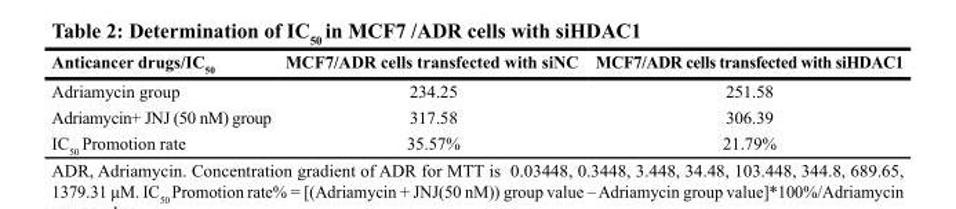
<table><thead><tr><td>Anticancer drugs/IC<sub>50</sub></td><td>MCF7/ADR cells transfected with siNC</td><td>MCF7/ADR cells transfected with siHDAC1</td></tr></thead><tbody><tr><td>Adriamycin group</td><td>234.25</td><td>251.58</td></tr><tr><td>Adriamycin+ JNJ (50 nM) group</td><td>317.58</td><td>306.39</td></tr><tr><td>IC<sub>50</sub> Promotion rate</td><td>35.57%</td><td>21.79%</td></tr></tbody></table>